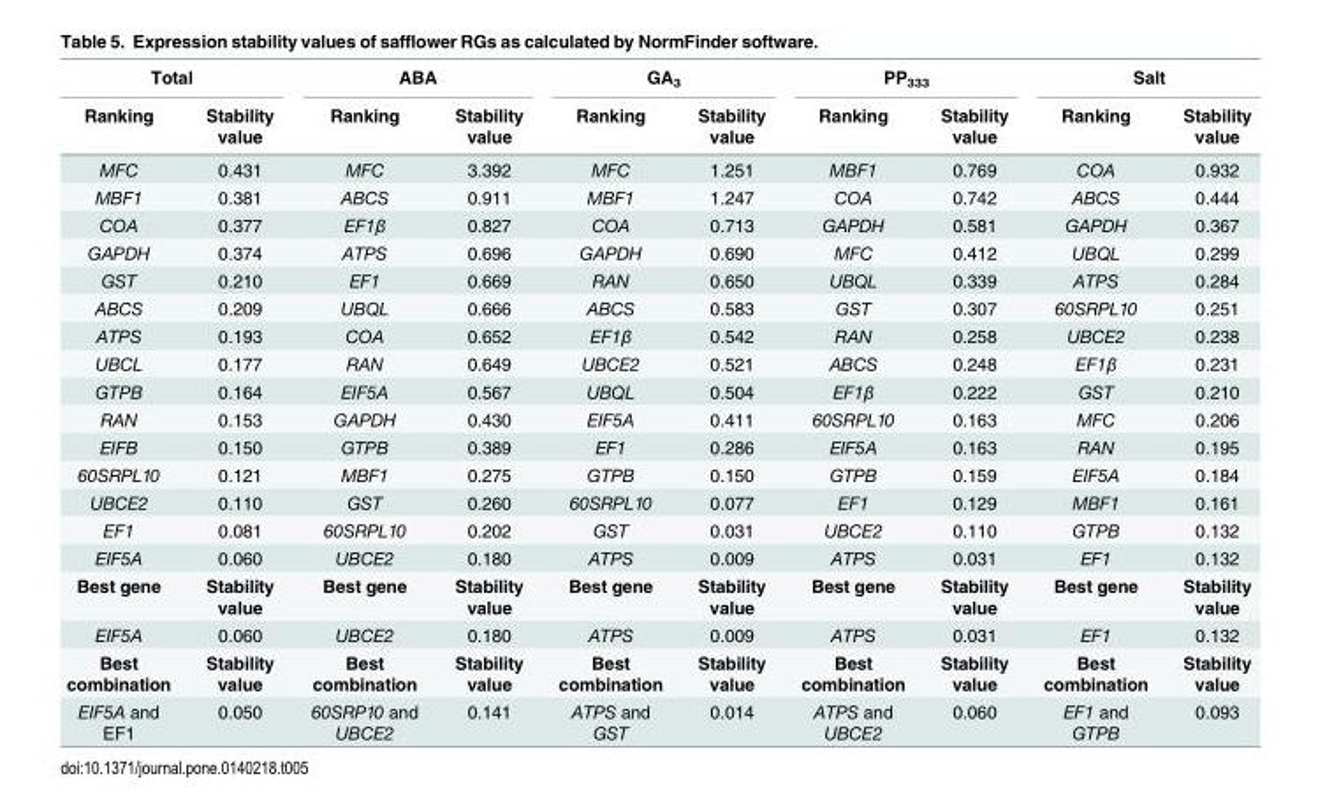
<table><thead><tr><td colspan="2">Total</td><td colspan="2">ABA</td><td colspan="2">GA<sub>3</sub></td><td colspan="2">PP<sub>333</sub></td><td colspan="2">Salt</td></tr><tr><td>Ranking</td><td>Stability value</td><td>Ranking</td><td>Stability value</td><td>Ranking</td><td>Stability value</td><td>Ranking</td><td>Stability value</td><td>Ranking</td><td>Stability value</td></tr></thead><tbody><tr><td>MFC</td><td>0.431</td><td>MFC</td><td>3.392</td><td>MFC</td><td>1.251</td><td>MBF1</td><td>0.769</td><td>COA</td><td>0.932</td></tr><tr><td>MBF1</td><td>0.381</td><td>ABCS</td><td>0.911</td><td>MBF1</td><td>1.247</td><td>COA</td><td>0.742</td><td>ABCS</td><td>0.444</td></tr><tr><td>COA</td><td>0.377</td><td>EF1β</td><td>0.827</td><td>COA</td><td>0.713</td><td>GAPDH</td><td>0.581</td><td>GAPDH</td><td>0.367</td></tr><tr><td>GAPDH</td><td>0.374</td><td>ATPS</td><td>0.696</td><td>GAPDH</td><td>0.690</td><td>MFC</td><td>0.412</td><td>UBQL</td><td>0.299</td></tr><tr><td>GST</td><td>0.210</td><td>EF1</td><td>0.669</td><td>RAN</td><td>0.650</td><td>UBQL</td><td>0.339</td><td>ATPS</td><td>0.284</td></tr><tr><td>ABCS</td><td>0.209</td><td>UBQL</td><td>0.666</td><td>ABCS</td><td>0.583</td><td>GST</td><td>0.307</td><td>60SRPL10</td><td>0.251</td></tr><tr><td>ATPS</td><td>0.193</td><td>COA</td><td>0.652</td><td>EF1β</td><td>0.542</td><td>RAN</td><td>0.258</td><td>UBCE2</td><td>0.238</td></tr><tr><td>UBCL</td><td>0.177</td><td>RAN</td><td>0.649</td><td>UBCE2</td><td>0.521</td><td>ABCS</td><td>0.248</td><td>EF1β</td><td>0.231</td></tr><tr><td>GTPB</td><td>0.164</td><td>EIF5A</td><td>0.567</td><td>UBQL</td><td>0.504</td><td>EF1β</td><td>0.222</td><td>GST</td><td>0.210</td></tr><tr><td>RAN</td><td>0.153</td><td>GAPDH</td><td>0.430</td><td>EIF5A</td><td>0.411</td><td>60SRPL10</td><td>0.163</td><td>MFC</td><td>0.206</td></tr><tr><td>EIFB</td><td>0.150</td><td>GTPB</td><td>0.389</td><td>EF1</td><td>0.286</td><td>EIF5A</td><td>0.163</td><td>RAN</td><td>0.195</td></tr><tr><td>60SRPL10</td><td>0.121</td><td>MBF1</td><td>0.275</td><td>GTPB</td><td>0.150</td><td>GTPB</td><td>0.159</td><td>EIF5A</td><td>0.184</td></tr><tr><td>UBCE2</td><td>0.110</td><td>GST</td><td>0.260</td><td>60SRPL10</td><td>0.077</td><td>EF1</td><td>0.129</td><td>MBF1</td><td>0.161</td></tr><tr><td>EF1</td><td>0.081</td><td>60SRPL10</td><td>0.202</td><td>GST</td><td>0.031</td><td>UBCE2</td><td>0.110</td><td>GTPB</td><td>0.132</td></tr><tr><td>EIF5A</td><td>0.060</td><td>UBCE2</td><td>0.180</td><td>ATPS</td><td>0.009</td><td>ATPS</td><td>0.031</td><td>EF1</td><td>0.132</td></tr><tr><td>Best gene</td><td>Stability value</td><td>Best gene</td><td>Stability value</td><td>Best gene</td><td>Stability value</td><td>Best gene</td><td>Stability value</td><td>Best gene</td><td>Stability value</td></tr><tr><td>EIF5A</td><td>0.060</td><td>UBCE2</td><td>0.180</td><td>ATPS</td><td>0.009</td><td>ATPS</td><td>0.031</td><td>EF1</td><td>0.132</td></tr><tr><td>Best combination</td><td>Stability value</td><td>Best combination</td><td>Stability value</td><td>Best combination</td><td>Stability value</td><td>Best combination</td><td>Stability value</td><td>Best combination</td><td>Stability value</td></tr><tr><td>EIF5A and EF1</td><td>0.050</td><td>60SRP10 and UBCE2</td><td>0.141</td><td>ATPS and GST</td><td>0.014</td><td>ATPS and UBCE2</td><td>0.060</td><td>EF1 and GTPB</td><td>0.093</td></tr></tbody></table>